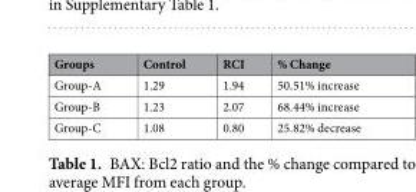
<table><thead><tr><td>Groups</td><td>Control</td><td>RCI</td><td>% Change</td></tr></thead><tbody><tr><td>Group-A</td><td>1.29</td><td>1.94</td><td>50.51% increase</td></tr><tr><td>Group-B</td><td>1.23</td><td>2.07</td><td>68.44% increase</td></tr><tr><td>Group-C</td><td>1.08</td><td>0.80</td><td>25.82% decrease</td></tr></tbody></table>